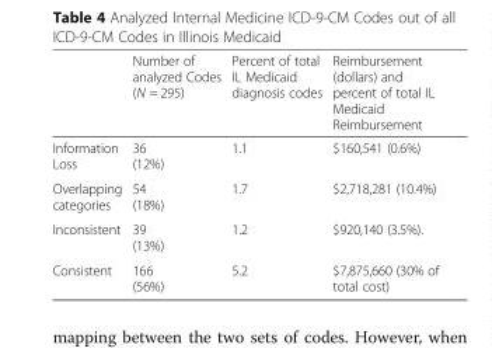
<table><thead><tr><td></td><td>Number of analyzed Codes (N = 295)</td><td>Percent of total IL Medicaid diagnosis codes</td><td>Reimbursement (dollars) and percent of total IL Medicaid Reimbursement</td></tr></thead><tbody><tr><td>Information Loss</td><td>36 (12%)</td><td>1.1</td><td>$160,541 (0.6%)</td></tr><tr><td>Overlapping categories</td><td>54 (18%)</td><td>1.7</td><td>$2,718,281 (10.4%)</td></tr><tr><td>Inconsistent</td><td>39 (13%)</td><td>1.2</td><td>$920,140 (3.5%).</td></tr><tr><td>Consistent</td><td>166 (56%)</td><td>5.2</td><td>$7,875,660 (30% of total cost)</td></tr></tbody></table>